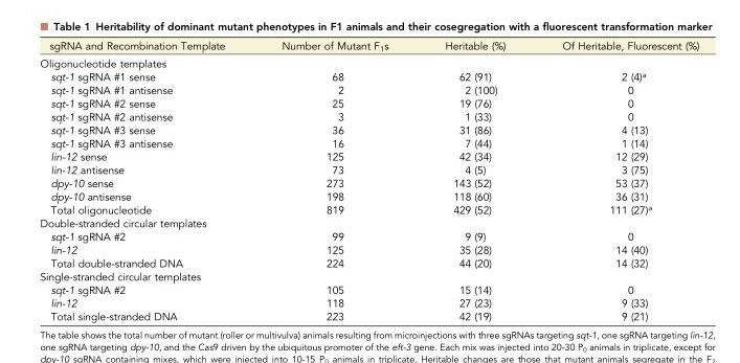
<table><thead><tr><td>sgRNA and Recombination Template</td><td>Number of Mutant F<sub>1</sub>s</td><td>Heritable (%)</td><td>Of Heritable, Fluorescent (%)</td></tr></thead><tbody><tr><td colspan="4">Oligonucleotide templates</td></tr><tr><td>sqt-1 sgRNA #1 sense</td><td>68</td><td>62 (91)</td><td>2 (4)<sup>a</sup></td></tr><tr><td>sqt-1 sgRNA #1 antisense</td><td>2</td><td>2 (100)</td><td>0</td></tr><tr><td>sqt-1 sgRNA #2 sense</td><td>25</td><td>19 (76)</td><td>0</td></tr><tr><td>sqt-1 sgRNA #2 antisense</td><td>3</td><td>1 (33)</td><td>0</td></tr><tr><td>sqt-1 sgRNA #3 sense</td><td>36</td><td>31 (86)</td><td>4 (13)</td></tr><tr><td>sqt-1 sgRNA #3 antisense</td><td>16</td><td>7 (44)</td><td>1 (14)</td></tr><tr><td>lin-12 sense</td><td>125</td><td>42 (34)</td><td>12 (29)</td></tr><tr><td>lin-12 antisense</td><td>73</td><td>4 (5)</td><td>3 (75)</td></tr><tr><td>dpy-10 sense</td><td>273</td><td>143 (52)</td><td>53 (37)</td></tr><tr><td>dpy-10 antisense</td><td>198</td><td>118 (60)</td><td>36 (31)</td></tr><tr><td>Total oligonucleotide</td><td>819</td><td>429 (52)</td><td>111 (27)<sup>a</sup></td></tr><tr><td colspan="4">Double-stranded circular templates</td></tr><tr><td>sqt-1 sgRNA #2</td><td>99</td><td>9 (9)</td><td>0</td></tr><tr><td>lin-12</td><td>125</td><td>35 (28)</td><td>14 (40)</td></tr><tr><td>Total double-stranded DNA</td><td>224</td><td>44 (20)</td><td>14 (32)</td></tr><tr><td colspan="4">Single-stranded circular templates</td></tr><tr><td>sqt-1 sgRNA #2</td><td>105</td><td>15 (14)</td><td>0</td></tr><tr><td>lin-12</td><td>118</td><td>27 (23)</td><td>9 (33)</td></tr><tr><td>Total single-stranded DNA</td><td>223</td><td>42 (19)</td><td>9 (21)</td></tr></tbody></table>